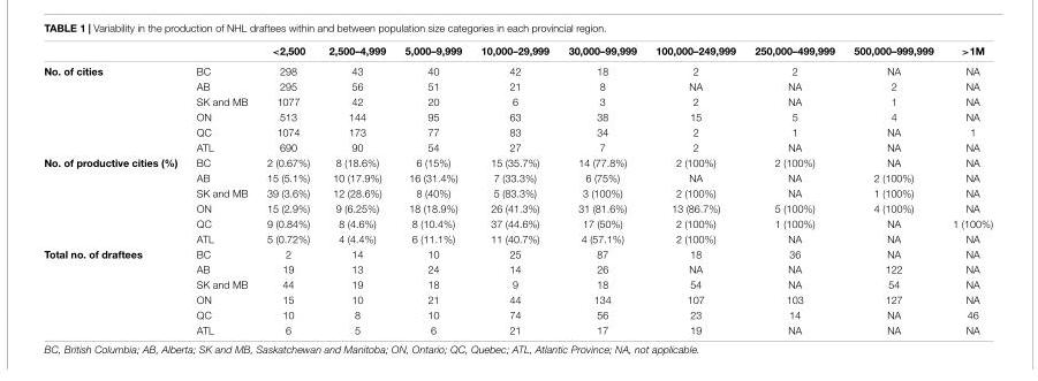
<table><thead><tr><td></td><td></td><td>&lt;2,500</td><td>2,500–4,999</td><td>5,000–9,999</td><td>10,000–29,999</td><td>30,000–99,999</td><td>100,000–249,999</td><td>250,000–499,999</td><td>500,000–999,999</td><td>&gt;1M</td></tr></thead><tbody><tr><td rowspan="6">No. of cities</td><td>BC</td><td>298</td><td>43</td><td>40</td><td>42</td><td>18</td><td>2</td><td>2</td><td>NA</td><td>NA</td></tr><tr><td>AB</td><td>295</td><td>56</td><td>51</td><td>21</td><td>8</td><td>NA</td><td>NA</td><td>2</td><td>NA</td></tr><tr><td>SK and MB</td><td>1077</td><td>42</td><td>20</td><td>6</td><td>3</td><td>2</td><td>NA</td><td>1</td><td>NA</td></tr><tr><td>ON</td><td>513</td><td>144</td><td>95</td><td>63</td><td>38</td><td>15</td><td>5</td><td>4</td><td>NA</td></tr><tr><td>QC</td><td>1074</td><td>173</td><td>77</td><td>83</td><td>34</td><td>2</td><td>1</td><td>NA</td><td>1</td></tr><tr><td>ATL</td><td>690</td><td>90</td><td>54</td><td>27</td><td>7</td><td>2</td><td>NA</td><td>NA</td><td>NA</td></tr><tr><td rowspan="6">No. of productive cities (%)</td><td>BC</td><td>2 (0.67%)</td><td>8 (18.6%)</td><td>6 (15%)</td><td>15 (35.7%)</td><td>14 (77.8%)</td><td>2 (100%)</td><td>2 (100%)</td><td>NA</td><td>NA</td></tr><tr><td>AB</td><td>15 (5.1%)</td><td>10 (17.9%)</td><td>16 (31.4%)</td><td>7 (33.3%)</td><td>6 (75%)</td><td>NA</td><td>NA</td><td>2 (100%)</td><td>NA</td></tr><tr><td>SK and MB</td><td>39 (3.6%)</td><td>12 (28.6%)</td><td>8 (40%)</td><td>5 (83.3%)</td><td>3 (100%)</td><td>2 (100%)</td><td>NA</td><td>1 (100%)</td><td>NA</td></tr><tr><td>ON</td><td>15 (2.9%)</td><td>9 (6.25%)</td><td>18 (18.9%)</td><td>26 (41.3%)</td><td>31 (81.6%)</td><td>13 (86.7%)</td><td>5 (100%)</td><td>4 (100%)</td><td>NA</td></tr><tr><td>QC</td><td>9 (0.84%)</td><td>8 (4.6%)</td><td>8 (10.4%)</td><td>37 (44.6%)</td><td>17 (50%)</td><td>2 (100%)</td><td>1 (100%)</td><td>NA</td><td>1 (100%)</td></tr><tr><td>ATL</td><td>5 (0.72%)</td><td>4 (4.4%)</td><td>6 (11.1%)</td><td>11 (40.7%)</td><td>4 (57.1%)</td><td>2 (100%)</td><td>NA</td><td>NA</td><td>NA</td></tr><tr><td rowspan="6">Total no. of draftees</td><td>BC</td><td>2</td><td>14</td><td>10</td><td>25</td><td>87</td><td>18</td><td>36</td><td>NA</td><td>NA</td></tr><tr><td>AB</td><td>19</td><td>13</td><td>24</td><td>14</td><td>26</td><td>NA</td><td>NA</td><td>122</td><td>NA</td></tr><tr><td>SK and MB</td><td>44</td><td>19</td><td>18</td><td>9</td><td>18</td><td>54</td><td>NA</td><td>54</td><td>NA</td></tr><tr><td>ON</td><td>15</td><td>10</td><td>21</td><td>44</td><td>134</td><td>107</td><td>103</td><td>127</td><td>NA</td></tr><tr><td>QC</td><td>10</td><td>8</td><td>10</td><td>74</td><td>56</td><td>23</td><td>14</td><td>NA</td><td>46</td></tr><tr><td>ATL</td><td>6</td><td>5</td><td>6</td><td>21</td><td>17</td><td>19</td><td>NA</td><td>NA</td><td>NA</td></tr></tbody></table>